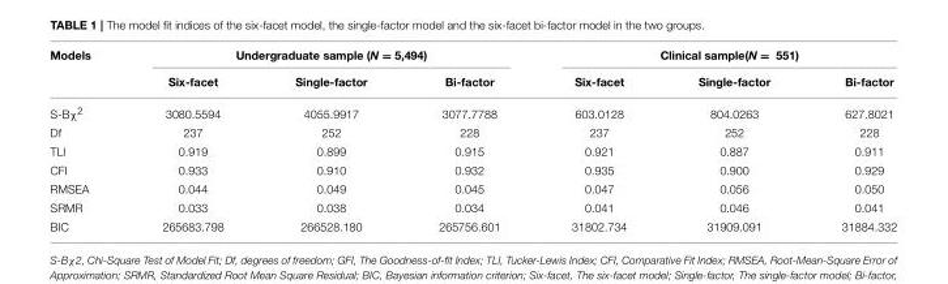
<table><thead><tr><td rowspan="2">Models</td><td colspan="3">Undergraduate sample (N = 5,494)</td><td colspan="3">Clinical sample(N = 551)</td></tr><tr><td>Six-facet</td><td>Single-factor</td><td>Bi-factor</td><td>Six-facet</td><td>Single-factor</td><td>Bi-factor</td></tr></thead><tbody><tr><td>S-Bχ<sup>2</sup></td><td>3080.5594</td><td>4055.9917</td><td>3077.7788</td><td>603.0128</td><td>804.0263</td><td>627.8021</td></tr><tr><td>Df</td><td>237</td><td>252</td><td>228</td><td>237</td><td>252</td><td>228</td></tr><tr><td>TLI</td><td>0.919</td><td>0.899</td><td>0.915</td><td>0.921</td><td>0.887</td><td>0.911</td></tr><tr><td>CFI</td><td>0.933</td><td>0.910</td><td>0.932</td><td>0.935</td><td>0.900</td><td>0.929</td></tr><tr><td>RMSEA</td><td>0.044</td><td>0.049</td><td>0.045</td><td>0.047</td><td>0.056</td><td>0.050</td></tr><tr><td>SRMR</td><td>0.033</td><td>0.038</td><td>0.034</td><td>0.041</td><td>0.046</td><td>0.041</td></tr><tr><td>BIC</td><td>265683.798</td><td>266528.180</td><td>265756.601</td><td>31802.734</td><td>31909.091</td><td>31884.332</td></tr></tbody></table>